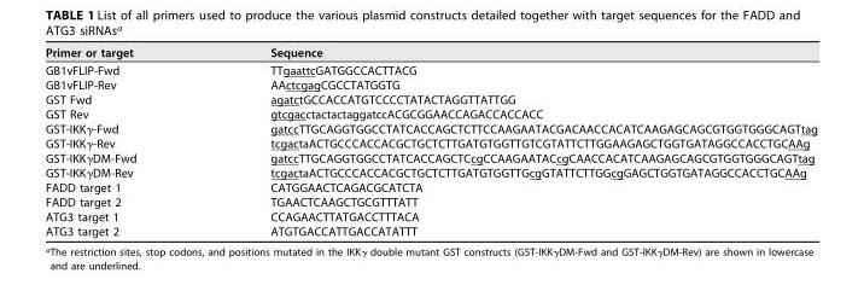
<table><thead><tr><td>Primer or target</td><td>Sequence</td></tr></thead><tbody><tr><td>GB1vFLIP-Fwd</td><td>TTgaattcGATGGCCACTTACG</td></tr><tr><td>GB1vFLIP-Rev</td><td>AActcgagCGCCTATGGTG</td></tr><tr><td>GST Fwd</td><td>agatctGCCACCATGTCCCCTATACTAGGTTATTGG</td></tr><tr><td>GST Rev</td><td>gtcgacctactactaggatccACGCGGAACCAGACCACCACC</td></tr><tr><td>GST-IKKγ-Fwd</td><td>gatccTTGCAGGTGGCCTATCACCAGCTCTTCCAAGAATACGACAACCACATCAAGAGCAGCGTGGTGGGCAGTtag</td></tr><tr><td>GST-IKKγ-Rev</td><td>tcgactaACTGCCCACCACGCTGCTCTTGATGTGGTTGTCGTATTCTTGGAAGAGCTGGTGATAGGCCACCTGCAAg</td></tr><tr><td>GST-IKKγDM-Fwd</td><td>gatccTTGCAGGTGGCCTATCACCAGCTCcgCCAAGAATACcgCAACCACATCAAGAGCAGCGTGGTGGGCAGTtag</td></tr><tr><td>GST-IKKγDM-Rev</td><td>tcgactaACTGCCCACCACGCTGCTCTTGATGTGGTTGcgGTATTCTTGGcgGAGCTGGTGATAGGCCACCTGCAAg</td></tr><tr><td>FADD target 1</td><td>CATGGAACTCAGACGCATCTA</td></tr><tr><td>FADD target 2</td><td>TGAACTCAAGCTGCGTTTATT</td></tr><tr><td>ATG3 target 1</td><td>CCAGAACTTATGACCTTTACA</td></tr><tr><td>ATG3 target 2</td><td>ATGTGACCATTGACCATATTT</td></tr></tbody></table>